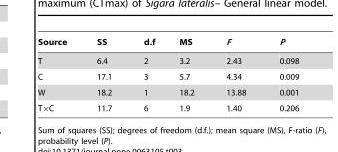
<table><thead><tr><td>Source</td><td>SS</td><td>d.f</td><td>MS</td><td>F</td><td>P</td></tr></thead><tbody><tr><td>T</td><td>6.4</td><td>2</td><td>3.2</td><td>2.43</td><td>0.098</td></tr><tr><td>C</td><td>17.1</td><td>3</td><td>5.7</td><td>4.34</td><td>0.009</td></tr><tr><td>W</td><td>18.2</td><td>1</td><td>18.2</td><td>13.88</td><td>0.001</td></tr><tr><td>T×C</td><td>11.7</td><td>6</td><td>1.9</td><td>1.40</td><td>0.206</td></tr></tbody></table>